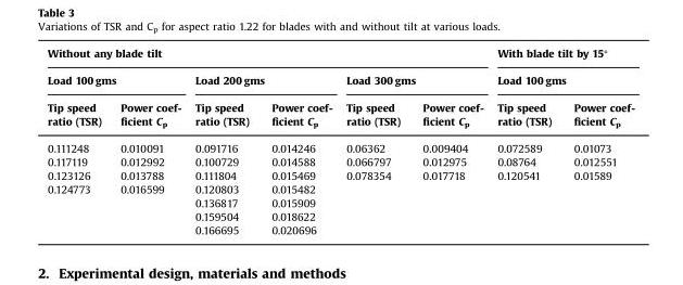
<table><thead><tr><td colspan="6">Without any blade tilt</td><td rowspan="2" colspan="2">With blade tilt by 15° Load 100 gms</td></tr><tr><td colspan="2">Load 100 gms</td><td colspan="2">Load 200 gms</td><td colspan="2">Load 300 gms</td></tr><tr><td>Tip speed ratio (TSR)</td><td>Power coef- ficient Cp</td><td>Tip speed ratio (TSR)</td><td>Power coef- ficient Cp</td><td>Tip speed ratio (TSR)</td><td>Power coef- ficient Cp</td><td>Tip speed ratio (TSR)</td><td>Power coef- ficient Cp</td></tr></thead><tbody><tr><td>0.111248</td><td>0.010091</td><td>0.091716</td><td>0.014246</td><td>0.06362</td><td>0.009404</td><td>0.072589</td><td>0.01073</td></tr><tr><td>0.117119</td><td>0.012992</td><td>0.100729</td><td>0.014588</td><td>0.066797</td><td>0.012975</td><td>0.08764</td><td>0.012551</td></tr><tr><td>0.123126</td><td>0.013788</td><td>0.111804</td><td>0.015469</td><td>0.078354</td><td>0.017718</td><td>0.120541</td><td>0.01589</td></tr><tr><td rowspan="4">0.124773</td><td>0.016599</td><td>0.120803</td><td>0.015482</td><td></td><td></td><td></td><td></td></tr><tr><td></td><td>0.136817</td><td>0.015909</td><td></td><td></td><td></td><td></td></tr><tr><td></td><td>0.159504</td><td>0.018622</td><td></td><td></td><td></td><td></td></tr><tr><td></td><td>0.166695</td><td>0.020696</td><td></td><td></td><td></td><td></td></tr></tbody></table>